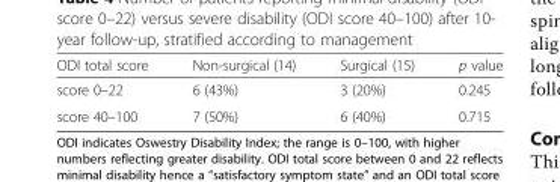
<table><thead><tr><td>ODI total score</td><td>Non-surgical (14)</td><td>Surgical (15)</td><td>p value</td></tr></thead><tbody><tr><td>score 0–22</td><td>6 (43%)</td><td>3 (20%)</td><td>0.245</td></tr><tr><td>score 40–100</td><td>7 (50%)</td><td>6 (40%)</td><td>0.715</td></tr></tbody></table>